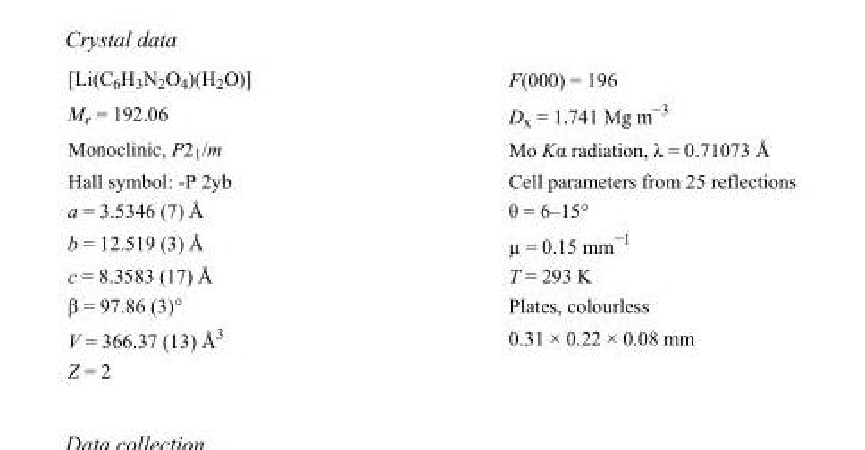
<table><tbody><tr><td>[Li(C<sub>6</sub>H<sub>3</sub>N<sub>2</sub>O<sub>4</sub>)(H<sub>2</sub>O)]</td><td>F(000) = 196</td></tr><tr><td>M<sub>r</sub> = 192.06</td><td>D<sub>x</sub> = 1.741 Mg m<sup>−3</sup></td></tr><tr><td>Monoclinic, P2<sub>1</sub>/m</td><td>Mo Kα radiation, λ = 0.71073 Å</td></tr><tr><td>Hall symbol: -P 2yb</td><td>Cell parameters from 25 reflections</td></tr><tr><td>a = 3.5346 (7) Å</td><td>θ = 6–15°</td></tr><tr><td>b = 12.519 (3) Å</td><td>µ = 0.15 mm<sup>−1</sup></td></tr><tr><td>c = 8.3583 (17) Å</td><td>T = 293 K</td></tr><tr><td>β = 97.86 (3)°</td><td>Plates, colourless</td></tr><tr><td>V = 366.37 (13) Å<sup>3</sup></td><td>0.31 × 0.22 × 0.08 mm</td></tr><tr><td>Z = 2</td><td></td></tr></tbody></table>